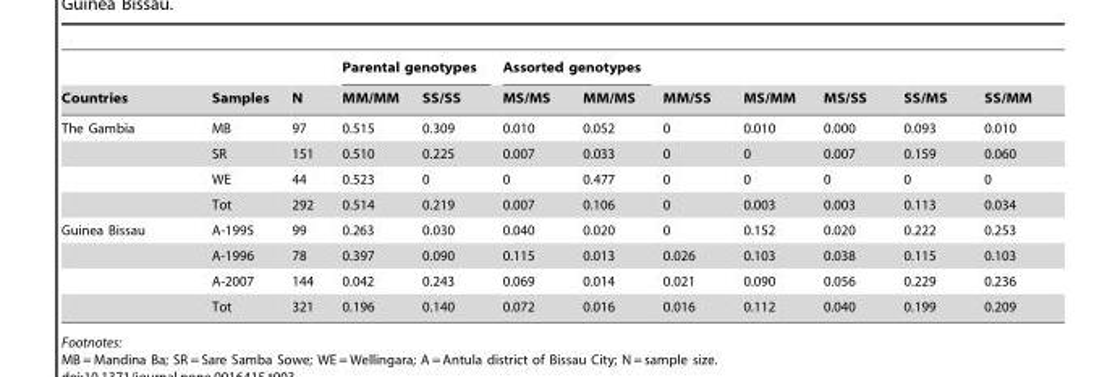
<table><thead><tr><td rowspan="2">Countries</td><td rowspan="2">Samples</td><td rowspan="2">N</td><td colspan="2">Parental genotypes</td><td colspan="2">Assorted genotypes</td><td rowspan="2">MM/SS</td><td rowspan="2">MS/MM</td><td rowspan="2">MS/SS</td><td rowspan="2">SS/MS</td><td rowspan="2">SS/MM</td></tr><tr><td>MM/MM</td><td>SS/SS</td><td>MS/MS</td><td>MM/MS</td></tr></thead><tbody><tr><td rowspan="4">The Gambia</td><td>MB</td><td>97</td><td>0.515</td><td>0.309</td><td>0.010</td><td>0.052</td><td>0</td><td>0.010</td><td>0.000</td><td>0.093</td><td>0.010</td></tr><tr><td>SR</td><td>151</td><td>0.510</td><td>0.225</td><td>0.007</td><td>0.033</td><td>0</td><td>0</td><td>0.007</td><td>0.159</td><td>0.060</td></tr><tr><td>WE</td><td>44</td><td>0.523</td><td>0</td><td>0</td><td>0.477</td><td>0</td><td>0</td><td>0</td><td>0</td><td>0</td></tr><tr><td>Tot</td><td>292</td><td>0.514</td><td>0.219</td><td>0.007</td><td>0.106</td><td>0</td><td>0.003</td><td>0.003</td><td>0.113</td><td>0.034</td></tr><tr><td rowspan="4">Guinea Bissau</td><td>A-1995</td><td>99</td><td>0.263</td><td>0.030</td><td>0.040</td><td>0.020</td><td>0</td><td>0.152</td><td>0.020</td><td>0.222</td><td>0.253</td></tr><tr><td>A-1996</td><td>78</td><td>0.397</td><td>0.090</td><td>0.115</td><td>0.013</td><td>0.026</td><td>0.103</td><td>0.038</td><td>0.115</td><td>0.103</td></tr><tr><td>A-2007</td><td>144</td><td>0.042</td><td>0.243</td><td>0.069</td><td>0.014</td><td>0.021</td><td>0.090</td><td>0.056</td><td>0.229</td><td>0.236</td></tr><tr><td>Tot</td><td>321</td><td>0.196</td><td>0.140</td><td>0.072</td><td>0.016</td><td>0.016</td><td>0.112</td><td>0.040</td><td>0.199</td><td>0.209</td></tr></tbody></table>